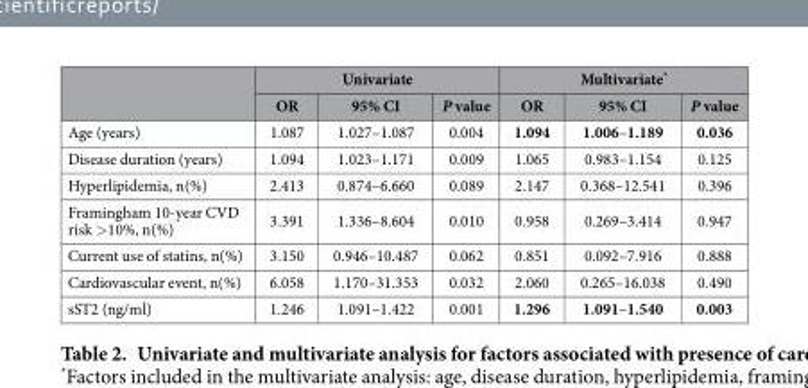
<table><thead><tr><td rowspan="2"></td><td colspan="3">Univariate</td><td colspan="3">Multivariate*</td></tr><tr><td>OR</td><td>95% CI</td><td>P value</td><td>OR</td><td>95% CI</td><td>P value</td></tr></thead><tbody><tr><td>Age (years)</td><td>1.087</td><td>1.027–1.087</td><td>0.004</td><td>1.094</td><td>1.006–1.189</td><td>0.036</td></tr><tr><td>Disease duration (years)</td><td>1.094</td><td>1.023–1.171</td><td>0.009</td><td>1.065</td><td>0.983–1.154</td><td>0.125</td></tr><tr><td>Hyperlipidemia, n(%)</td><td>2.413</td><td>0.874–6.660</td><td>0.089</td><td>2.147</td><td>0.368–12.541</td><td>0.396</td></tr><tr><td>Framingham 10-year CVD risk &gt; 10%, n(%)</td><td>3.391</td><td>1.336–8.604</td><td>0.010</td><td>0.958</td><td>0.269–3.414</td><td>0.947</td></tr><tr><td>Current use of statins, n(%)</td><td>3.150</td><td>0.946–10.487</td><td>0.062</td><td>0.851</td><td>0.092–7.916</td><td>0.888</td></tr><tr><td>Cardiovascular event, n(%)</td><td>6.058</td><td>1.170–31.353</td><td>0.032</td><td>2.060</td><td>0.265–16.038</td><td>0.490</td></tr><tr><td>sST2 (ng/ml)</td><td>1.246</td><td>1.091–1.422</td><td>0.001</td><td>1.296</td><td>1.091–1.540</td><td>0.003</td></tr></tbody></table>